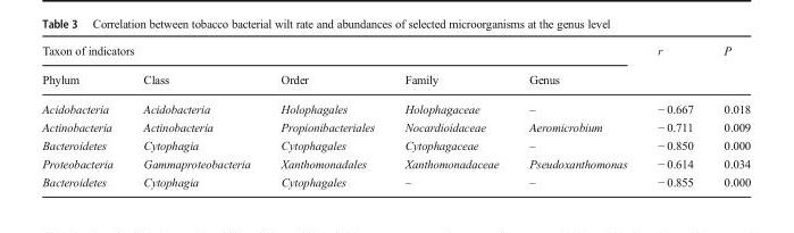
<table><thead><tr><td colspan="5">Taxon of indicators</td><td rowspan="2">r</td><td rowspan="2">P</td></tr><tr><td>Phylum</td><td>Class</td><td>Order</td><td>Family</td><td>Genus</td></tr></thead><tbody><tr><td>Acidobacteria</td><td>Acidobacteria</td><td>Holophagales</td><td>Holophagaceae</td><td>–</td><td>− 0.667</td><td>0.018</td></tr><tr><td>Actinobacteria</td><td>Actinobacteria</td><td>Propionibacteriales</td><td>Nocardioidaceae</td><td>Aeromicrobium</td><td>− 0.711</td><td>0.009</td></tr><tr><td>Bacteroidetes</td><td>Cytophagia</td><td>Cytophagales</td><td>Cytophagaceae</td><td>–</td><td>− 0.850</td><td>0.000</td></tr><tr><td>Proteobacteria</td><td>Gammaproteobacteria</td><td>Xanthomonadales</td><td>Xanthomonadaceae</td><td>Pseudoxanthomonas</td><td>− 0.614</td><td>0.034</td></tr><tr><td>Bacteroidetes</td><td>Cytophagia</td><td>Cytophagales</td><td>–</td><td>–</td><td>− 0.855</td><td>0.000</td></tr></tbody></table>